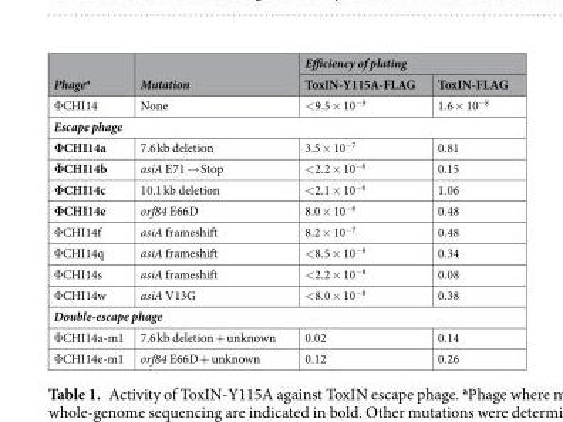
<table><thead><tr><td rowspan="2">Phage<sup>a</sup></td><td rowspan="2">Mutation</td><td colspan="2">Efficiency of plating</td></tr><tr><td>ToxIN-Y115A-FLAG</td><td>ToxIN-FLAG</td></tr></thead><tbody><tr><td>ΦCHI14</td><td>None</td><td>&lt;9.5 × 10<sup>−9</sup></td><td>1.6 × 10<sup>−8</sup></td></tr><tr><td colspan="4">Escape phage</td></tr><tr><td>ΦCHI14a</td><td>7.6 kb deletion</td><td>3.5 × 10<sup>−7</sup></td><td>0.81</td></tr><tr><td>ΦCHI14b</td><td>asiA E71 → Stop</td><td>&lt;2.2 × 10<sup>−6</sup></td><td>0.15</td></tr><tr><td>ΦCHI14c</td><td>10.1 kb deletion</td><td>&lt;2.1 × 10<sup>−6</sup></td><td>1.06</td></tr><tr><td>ΦCHI14e</td><td>orf84 E66D</td><td>8.0 × 10<sup>−6</sup></td><td>0.48</td></tr><tr><td>ΦCHI14f</td><td>asiA frameshift</td><td>8.2 × 10<sup>−7</sup></td><td>0.48</td></tr><tr><td>ΦCHI14q</td><td>asiA frameshift</td><td>&lt;8.5 × 10<sup>−8</sup></td><td>0.34</td></tr><tr><td>ΦCHI14s</td><td>asiA frameshift</td><td>&lt;2.2 × 10<sup>−8</sup></td><td>0.08</td></tr><tr><td>ΦCHI14w</td><td>asiA V13G</td><td>&lt;8.0 × 10<sup>−8</sup></td><td>0.38</td></tr><tr><td colspan="4">Double-escape phage</td></tr><tr><td>ΦCHI14a-m1</td><td>7.6 kb deletion + unknown</td><td>0.02</td><td>0.14</td></tr><tr><td>ΦCHI14e-m1</td><td>orf84 E66D + unknown</td><td>0.12</td><td>0.26</td></tr></tbody></table>